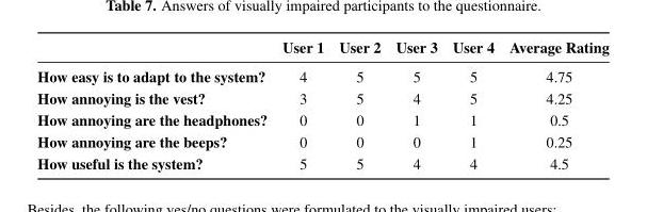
<table><thead><tr><td></td><td>User 1</td><td>User 2</td><td>User 3</td><td>User 4</td><td>Average Rating</td></tr></thead><tbody><tr><td>How easy is to adapt to the system?</td><td>4</td><td>5</td><td>5</td><td>5</td><td>4.75</td></tr><tr><td>How annoying is the vest?</td><td>3</td><td>5</td><td>4</td><td>5</td><td>4.25</td></tr><tr><td>How annoying are the headphones?</td><td>0</td><td>0</td><td>1</td><td>1</td><td>0.5</td></tr><tr><td>How annoying are the beeps?</td><td>0</td><td>0</td><td>0</td><td>1</td><td>0.25</td></tr><tr><td>How useful is the system?</td><td>5</td><td>5</td><td>4</td><td>4</td><td>4.5</td></tr></tbody></table>